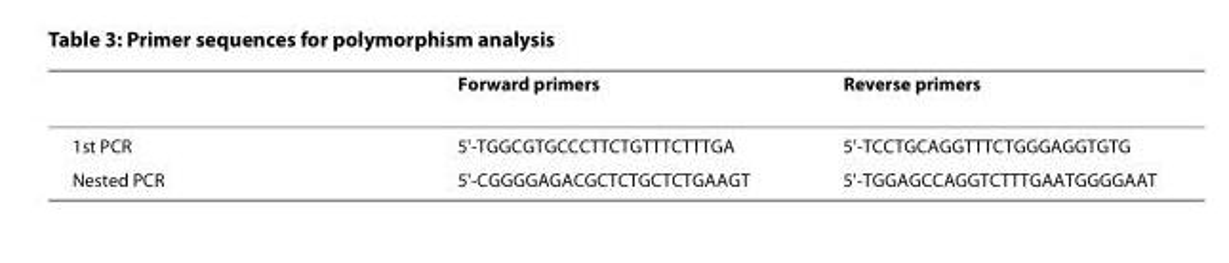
<table><thead><tr><td></td><td>Forward primers</td><td>Reverse primers</td></tr></thead><tbody><tr><td>1st PCR</td><td>5&#x27;-TGGCGTGCCCTTCTGTTTCTTTGA</td><td>5&#x27;-TCCTGCAGGTTTCTGGGAGGTGTG</td></tr><tr><td>Nested PCR</td><td>5&#x27;-CGGGGAGACGCTCTGCTCTGAAGT</td><td>5&#x27;-TGGAGCCAGGTCTTTGAATGGGGAAT</td></tr></tbody></table>